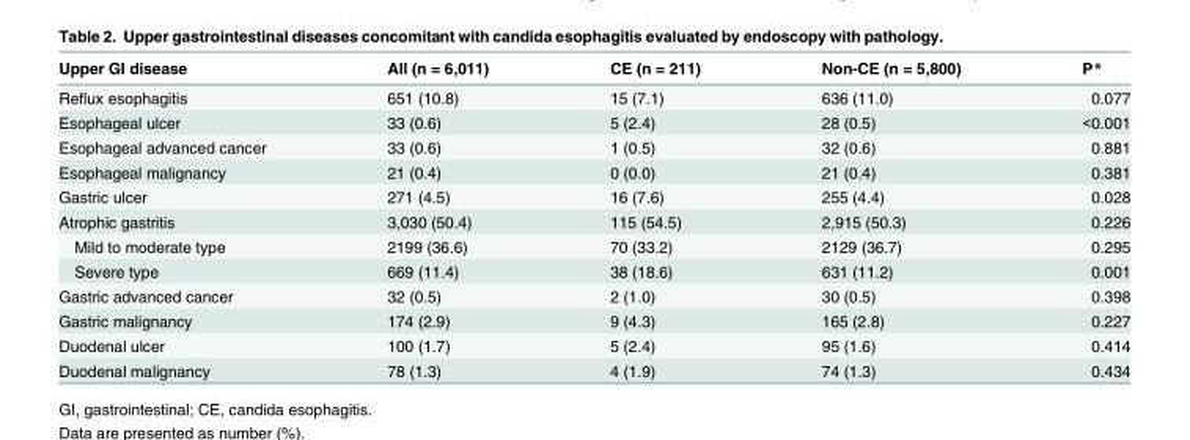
<table><thead><tr><td>Upper GI disease</td><td>All (n = 6,011)</td><td>CE (n = 211)</td><td>Non-CE (n = 5,800)</td><td>P*</td></tr></thead><tbody><tr><td>Reflux esophagitis</td><td>651 (10.8)</td><td>15 (7.1)</td><td>636 (11.0)</td><td>0.077</td></tr><tr><td>Esophageal ulcer</td><td>33 (0.6)</td><td>5 (2.4)</td><td>28 (0.5)</td><td>&lt;0.001</td></tr><tr><td>Esophageal advanced cancer</td><td>33 (0.6)</td><td>1 (0.5)</td><td>32 (0.6)</td><td>0.881</td></tr><tr><td>Esophageal malignancy</td><td>21 (0.4)</td><td>0 (0.0)</td><td>21 (0.4)</td><td>0.381</td></tr><tr><td>Gastric ulcer</td><td>271 (4.5)</td><td>16 (7.6)</td><td>255 (4.4)</td><td>0.028</td></tr><tr><td>Atrophic gastritis</td><td>3,030 (50.4)</td><td>115 (54.5)</td><td>2,915 (50.3)</td><td>0.226</td></tr><tr><td>Mild to moderate type</td><td>2199 (36.6)</td><td>70 (33.2)</td><td>2129 (36.7)</td><td>0.295</td></tr><tr><td>Severe type</td><td>669 (11.4)</td><td>38 (18.6)</td><td>631 (11.2)</td><td>0.001</td></tr><tr><td>Gastric advanced cancer</td><td>32 (0.5)</td><td>2 (1.0)</td><td>30 (0.5)</td><td>0.398</td></tr><tr><td>Gastric malignancy</td><td>174 (2.9)</td><td>9 (4.3)</td><td>165 (2.8)</td><td>0.227</td></tr><tr><td>Duodenal ulcer</td><td>100 (1.7)</td><td>5 (2.4)</td><td>95 (1.6)</td><td>0.414</td></tr><tr><td>Duodenal malignancy</td><td>78 (1.3)</td><td>4 (1.9)</td><td>74 (1.3)</td><td>0.434</td></tr></tbody></table>